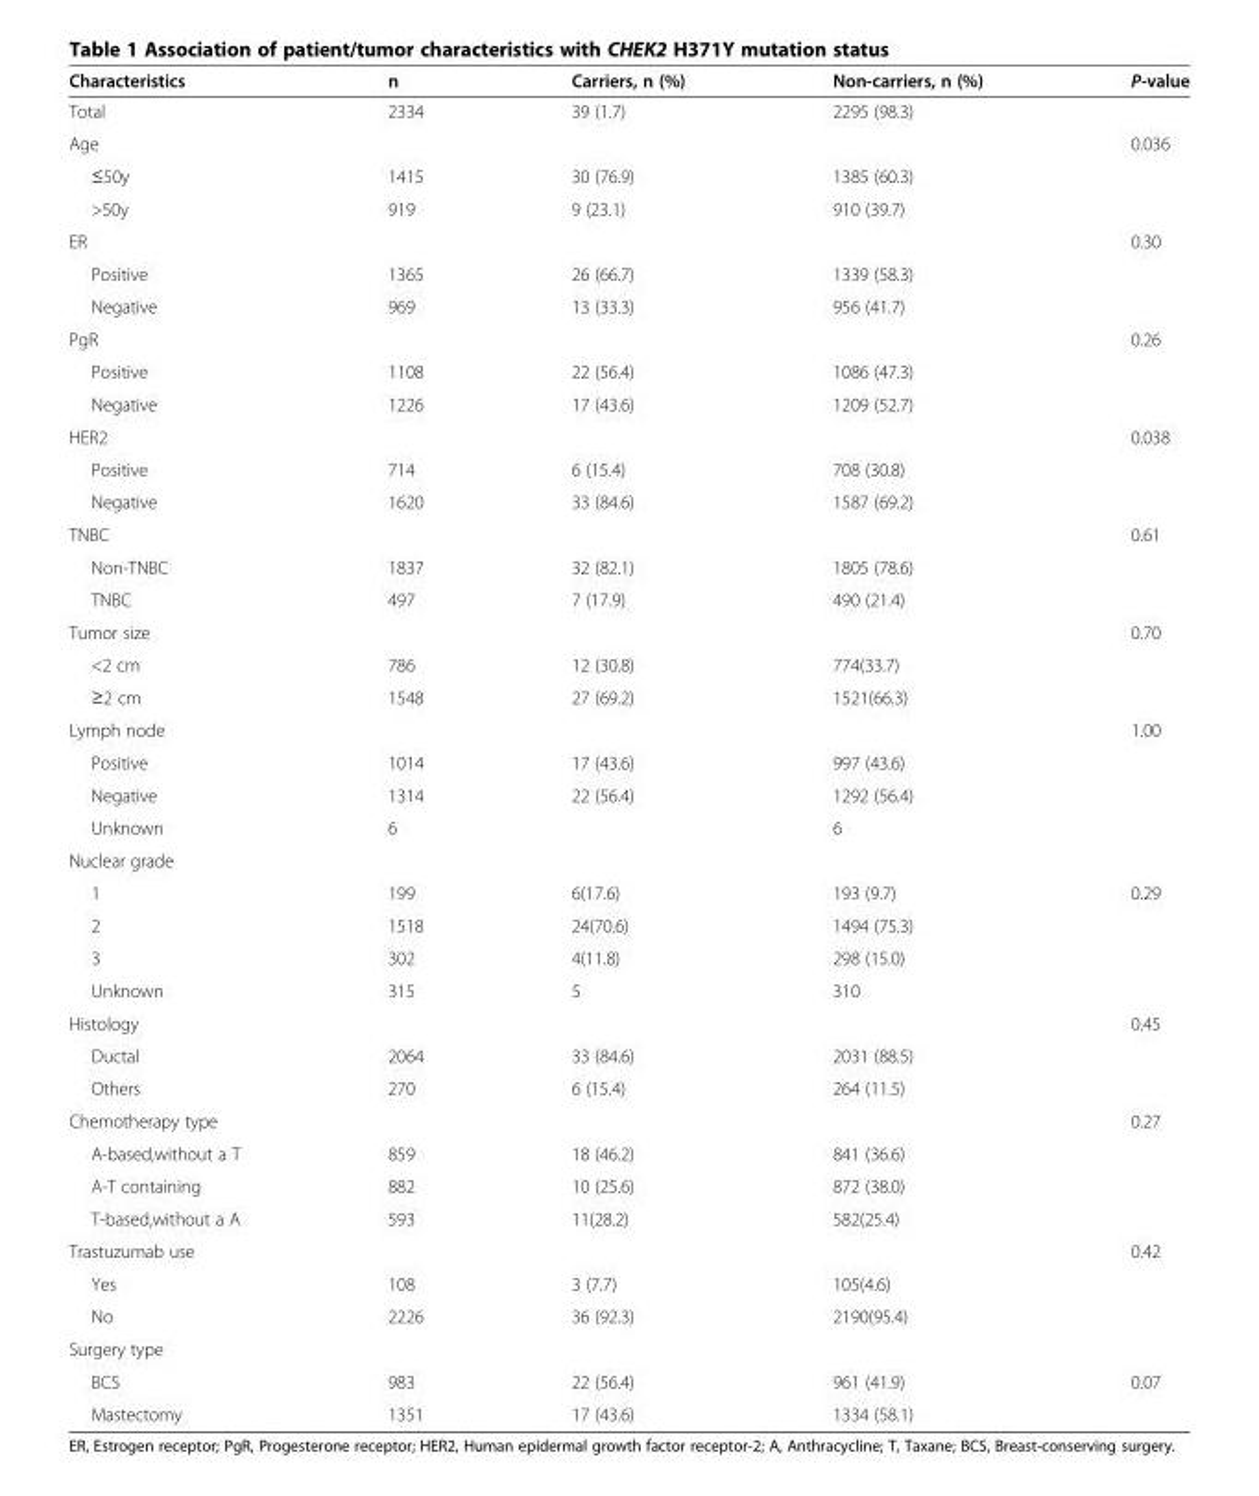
<table><thead><tr><td>Characteristics</td><td>n</td><td>Carriers, n (%)</td><td>Non-carriers, n (%)</td><td>P-value</td></tr></thead><tbody><tr><td>Total</td><td>2334</td><td>39 (1.7)</td><td>2295 (98.3)</td><td></td></tr><tr><td>Age</td><td></td><td></td><td></td><td>0.036</td></tr><tr><td>≤50y</td><td>1415</td><td>30 (76.9)</td><td>1385 (60.3)</td><td></td></tr><tr><td>&gt;50y</td><td>919</td><td>9 (23.1)</td><td>910 (39.7)</td><td></td></tr><tr><td>ER</td><td></td><td></td><td></td><td>0.30</td></tr><tr><td>Positive</td><td>1365</td><td>26 (66.7)</td><td>1339 (58.3)</td><td></td></tr><tr><td>Negative</td><td>969</td><td>13 (33.3)</td><td>956 (41.7)</td><td></td></tr><tr><td>PgR</td><td></td><td></td><td></td><td>0.26</td></tr><tr><td>Positive</td><td>1108</td><td>22 (56.4)</td><td>1086 (47.3)</td><td></td></tr><tr><td>Negative</td><td>1226</td><td>17 (43.6)</td><td>1209 (52.7)</td><td></td></tr><tr><td>HER2</td><td></td><td></td><td></td><td>0.038</td></tr><tr><td>Positive</td><td>714</td><td>6 (15.4)</td><td>708 (30.8)</td><td></td></tr><tr><td>Negative</td><td>1620</td><td>33 (84.6)</td><td>1587 (69.2)</td><td></td></tr><tr><td>TNBC</td><td></td><td></td><td></td><td>0.61</td></tr><tr><td>Non-TNBC</td><td>1837</td><td>32 (82.1)</td><td>1805 (78.6)</td><td></td></tr><tr><td>TNBC</td><td>497</td><td>7 (17.9)</td><td>490 (21.4)</td><td></td></tr><tr><td>Tumor size</td><td></td><td></td><td></td><td>0.70</td></tr><tr><td>&lt;2 cm</td><td>786</td><td>12 (30.8)</td><td>774(33.7)</td><td></td></tr><tr><td>≥2 cm</td><td>1548</td><td>27 (69.2)</td><td>1521(66.3)</td><td></td></tr><tr><td>Lymph node</td><td></td><td></td><td></td><td>1.00</td></tr><tr><td>Positive</td><td>1014</td><td>17 (43.6)</td><td>997 (43.6)</td><td></td></tr><tr><td>Negative</td><td>1314</td><td>22 (56.4)</td><td>1292 (56.4)</td><td></td></tr><tr><td>Unknown</td><td>6</td><td></td><td>6</td><td></td></tr><tr><td colspan="5">Nuclear grade</td></tr><tr><td>1</td><td>199</td><td>6(17.6)</td><td>193 (9.7)</td><td>0.29</td></tr><tr><td>2</td><td>1518</td><td>24(70.6)</td><td>1494 (75.3)</td><td></td></tr><tr><td>3</td><td>302</td><td>4(11.8)</td><td>298 (15.0)</td><td></td></tr><tr><td>Unknown</td><td>315</td><td>5</td><td>310</td><td></td></tr><tr><td>Histology</td><td></td><td></td><td></td><td>0.45</td></tr><tr><td>Ductal</td><td>2064</td><td>33 (84.6)</td><td>2031 (88.5)</td><td></td></tr><tr><td>Others</td><td>270</td><td>6 (15.4)</td><td>264 (11.5)</td><td></td></tr><tr><td>Chemotherapy type</td><td></td><td></td><td></td><td>0.27</td></tr><tr><td>A-based,without a T</td><td>859</td><td>18 (46.2)</td><td>841 (36.6)</td><td></td></tr><tr><td>A-T containing</td><td>882</td><td>10 (25.6)</td><td>872 (38.0)</td><td></td></tr><tr><td>T-based,without a A</td><td>593</td><td>11(28.2)</td><td>582(25.4)</td><td></td></tr><tr><td>Trastuzumab use</td><td></td><td></td><td></td><td>0.42</td></tr><tr><td>Yes</td><td>108</td><td>3 (7.7)</td><td>105(4.6)</td><td></td></tr><tr><td>No</td><td>2226</td><td>36 (92.3)</td><td>2190(95.4)</td><td></td></tr><tr><td colspan="5">Surgery type</td></tr><tr><td>BCS</td><td>983</td><td>22 (56.4)</td><td>961 (41.9)</td><td>0.07</td></tr><tr><td>Mastectomy</td><td>1351</td><td>17 (43.6)</td><td>1334 (58.1)</td><td></td></tr></tbody></table>